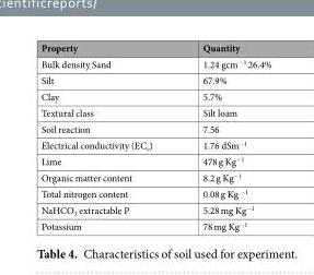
<table><thead><tr><td>Property</td><td>Quantity</td></tr></thead><tbody><tr><td>Bulk density Sand</td><td>1.24 gcm<sup>−3</sup> 26.4%</td></tr><tr><td>Silt</td><td>67.9%</td></tr><tr><td>Clay</td><td>5.7%</td></tr><tr><td>Textural class</td><td>Silt loam</td></tr><tr><td>Soil reaction</td><td>7.56</td></tr><tr><td>Electrical conductivity (EC<sub>e</sub>)</td><td>1.76 dSm<sup>−1</sup></td></tr><tr><td>Lime</td><td>478 g Kg<sup>−1</sup></td></tr><tr><td>Organic matter content</td><td>8.2 g Kg<sup>−1</sup></td></tr><tr><td>Total nitrogen content</td><td>0.08 g Kg <sup>−1</sup></td></tr><tr><td>NaHCO<sub>3</sub> extractable P</td><td>5.28 mg Kg<sup>−1</sup></td></tr><tr><td>Potassium</td><td>78 mg Kg<sup>−1</sup></td></tr></tbody></table>